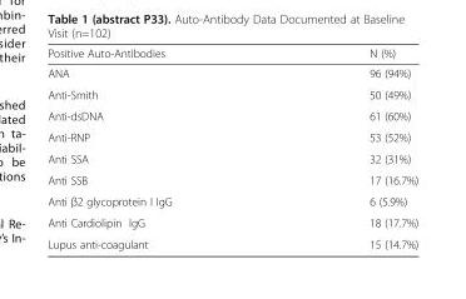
<table><thead><tr><td>Positive Auto-Antibodies</td><td>N (%)</td></tr></thead><tbody><tr><td>ANA</td><td>96 (94%)</td></tr><tr><td>Anti-Smith</td><td>50 (49%)</td></tr><tr><td>Anti-dsDNA</td><td>61 (60%)</td></tr><tr><td>Anti-RNP</td><td>53 (52%)</td></tr><tr><td>Anti SSA</td><td>32 (31%)</td></tr><tr><td>Anti SSB</td><td>17 (16.7%)</td></tr><tr><td>Anti β2 glycoprotein I IgG</td><td>6 (5.9%)</td></tr><tr><td>Anti Cardiolipin IgG</td><td>18 (17.7%)</td></tr><tr><td>Lupus anti-coagulant</td><td>15 (14.7%)</td></tr></tbody></table>